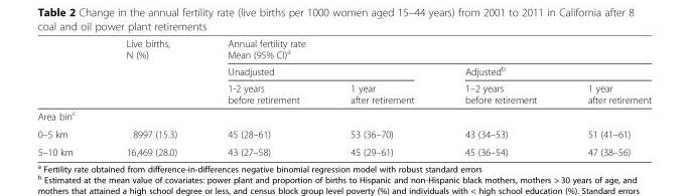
<table><thead><tr><td rowspan="3"></td><td rowspan="3">Live births, N (%)</td><td colspan="4">Annual fertility rate Mean (95% CI)<sup>a</sup></td></tr><tr><td colspan="2">Unadjusted</td><td colspan="2">Adjusted<sup>b</sup></td></tr><tr><td>1-2 years before retirement</td><td>1 year after retirement</td><td>1–2 years before retirement</td><td>1 year after retirement</td></tr></thead><tbody><tr><td colspan="6">Area bin<sup>c</sup></td></tr><tr><td>0–5 km</td><td>8997 (15.3)</td><td>45 (28–61)</td><td>53 (36–70)</td><td>43 (34–53)</td><td>51 (41–61)</td></tr><tr><td>5–10 km</td><td>16,469 (28.0)</td><td>43 (27–58)</td><td>45 (29–61)</td><td>45 (36–54)</td><td>47 (38–56)</td></tr></tbody></table>